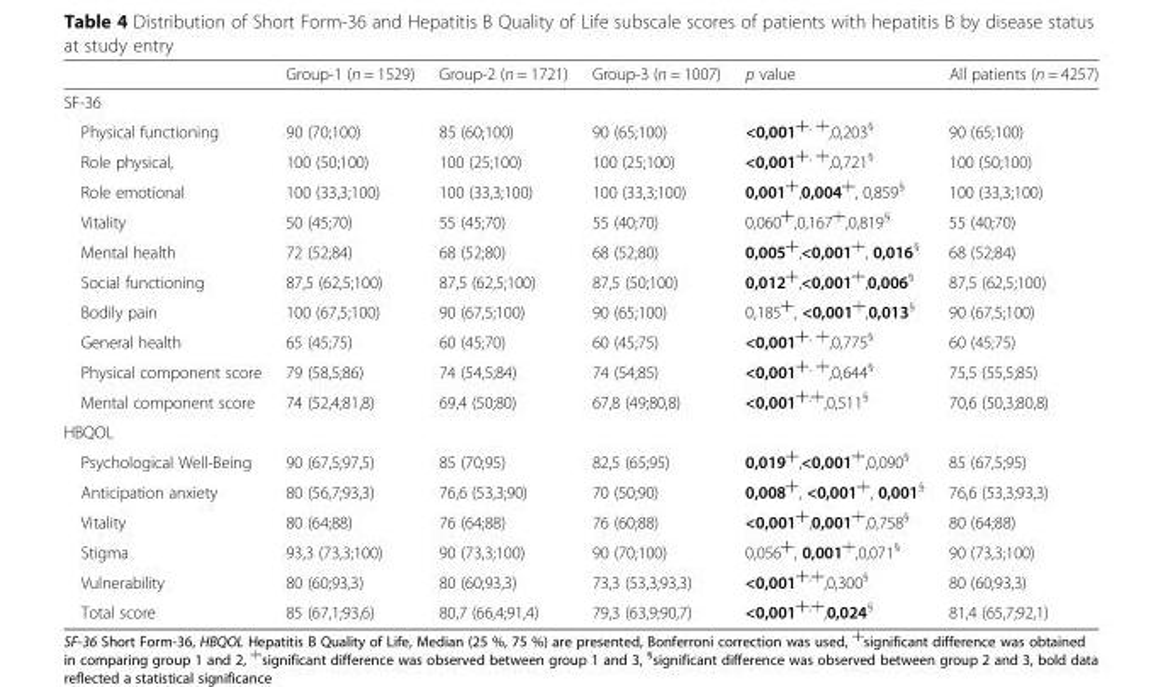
<table><thead><tr><td></td><td>Group-1 (n = 1529)</td><td>Group-2 (n = 1721)</td><td>Group-3 (n = 1007)</td><td>p value</td><td>All patients (n = 4257)</td></tr></thead><tbody><tr><td colspan="6">SF-36</td></tr><tr><td>Physical functioning</td><td>90 (70;100)</td><td>85 (60;100)</td><td>90 (65;100)</td><td>&lt;0,001<sup>┼, ╪</sup>,0,203<sup>§</sup></td><td>90 (65;100)</td></tr><tr><td>Role physical,</td><td>100 (50;100)</td><td>100 (25;100)</td><td>100 (25;100)</td><td>&lt;0,001<sup>┼, ╪</sup>,0,721<sup>§</sup></td><td>100 (50;100)</td></tr><tr><td>Role emotional</td><td>100 (33,3;100)</td><td>100 (33,3;100)</td><td>100 (33,3;100)</td><td>0,001<sup>┼</sup>,0,004<sup>╪</sup>, 0,859<sup>§</sup></td><td>100 (33,3;100)</td></tr><tr><td>Vitality</td><td>50 (45;70)</td><td>55 (45;70)</td><td>55 (40;70)</td><td>0,060<sup>┼</sup>,0,167<sup>╪</sup>,0,819<sup>§</sup></td><td>55 (40;70)</td></tr><tr><td>Mental health</td><td>72 (52;84)</td><td>68 (52;80)</td><td>68 (52;80)</td><td>0,005<sup>┼</sup>,&lt;0,001<sup>╪</sup>, 0,016<sup>§</sup></td><td>68 (52;84)</td></tr><tr><td>Social functioning</td><td>87,5 (62,5;100)</td><td>87,5 (62,5;100)</td><td>87,5 (50;100)</td><td>0,012<sup>┼</sup>,&lt;0,001<sup>╪</sup>,0,006<sup>§</sup></td><td>87,5 (62,5;100)</td></tr><tr><td>Bodily pain</td><td>100 (67,5;100)</td><td>90 (67,5;100)</td><td>90 (65;100)</td><td>0,185<sup>┼</sup>, &lt;0,001<sup>╪</sup>,0,013<sup>§</sup></td><td>90 (67,5;100)</td></tr><tr><td>General health</td><td>65 (45;75)</td><td>60 (45;70)</td><td>60 (45;75)</td><td>&lt;0,001<sup>┼, ╪</sup>,0,775<sup>§</sup></td><td>60 (45;75)</td></tr><tr><td>Physical component score</td><td>79 (58,5;86)</td><td>74 (54,5;84)</td><td>74 (54;85)</td><td>&lt;0,001<sup>┼, ╪</sup>,0,644<sup>§</sup></td><td>75,5 (55,5;85)</td></tr><tr><td>Mental component score</td><td>74 (52,4;81,8)</td><td>69,4 (50;80)</td><td>67,8 (49;80,8)</td><td>&lt;0,001<sup>┼,╪</sup>,0,511<sup>§</sup></td><td>70,6 (50,3;80,8)</td></tr><tr><td colspan="6">HBQOL</td></tr><tr><td>Psychological Well-Being</td><td>90 (67,5;97,5)</td><td>85 (70;95)</td><td>82,5 (65;95)</td><td>0,019<sup>┼</sup>,&lt;0,001<sup>╪</sup>,0,090<sup>§</sup></td><td>85 (67,5;95)</td></tr><tr><td>Anticipation anxiety</td><td>80 (56,7;93,3)</td><td>76,6 (53,3;90)</td><td>70 (50;90)</td><td>0,008<sup>┼</sup>, &lt;0,001<sup>╪</sup>, 0,001<sup>§</sup></td><td>76,6 (53,3;93,3)</td></tr><tr><td>Vitality</td><td>80 (64;88)</td><td>76 (64;88)</td><td>76 (60;88)</td><td>&lt;0,001<sup>┼</sup>,0,001<sup>╪</sup>,0,758<sup>§</sup></td><td>80 (64;88)</td></tr><tr><td>Stigma</td><td>93,3 (73,3;100)</td><td>90 (73,3;100)</td><td>90 (70;100)</td><td>0,056<sup>┼</sup>, 0,001<sup>╪</sup>,0,071<sup>§</sup></td><td>90 (73,3;100)</td></tr><tr><td>Vulnerability</td><td>80 (60;93,3)</td><td>80 (60;93,3)</td><td>73,3 (53,3;93,3)</td><td>&lt;0,001<sup>┼,╪</sup>,0,300<sup>§</sup></td><td>80 (60;93,3)</td></tr><tr><td>Total score</td><td>85 (67,1;93,6)</td><td>80,7 (66,4;91,4)</td><td>79,3 (63,9;90,7)</td><td>&lt;0,001<sup>┼,╪</sup>,0,024<sup>§</sup></td><td>81,4 (65,7;92,1)</td></tr></tbody></table>